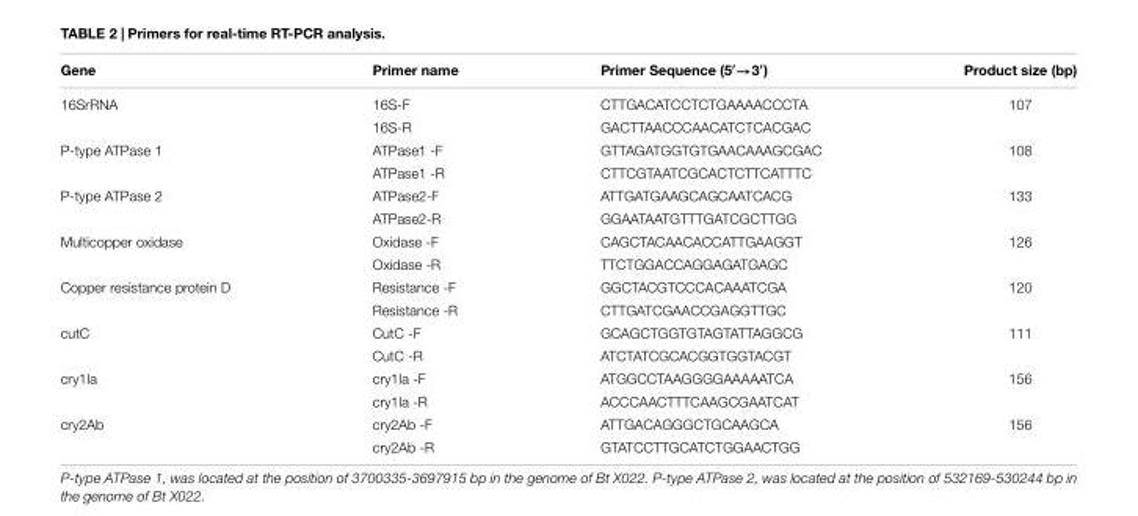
<table><thead><tr><td>Gene</td><td>Primer name</td><td>Primer Sequence (5′→3′)</td><td>Product size (bp)</td></tr></thead><tbody><tr><td rowspan="2">16SrRNA</td><td>16S-F</td><td>CTTGACATCCTCTGAAAACCCTA</td><td>107</td></tr><tr><td>16S-R</td><td>GACTTAACCCAACATCTCACGAC</td><td></td></tr><tr><td rowspan="2">P-type ATPase 1</td><td>ATPase1 -F</td><td>GTTAGATGGTGTGAACAAAGCGAC</td><td>108</td></tr><tr><td>ATPase1 -R</td><td>CTTCGTAATCGCACTCTTCATTTC</td><td></td></tr><tr><td rowspan="2">P-type ATPase 2</td><td>ATPase2-F</td><td>ATTGATGAAGCAGCAATCACG</td><td>133</td></tr><tr><td>ATPase2-R</td><td>GGAATAATGTTTGATCGCTTGG</td><td></td></tr><tr><td rowspan="2">Multicopper oxidase</td><td>Oxidase -F</td><td>CAGCTACAACACCATTGAAGGT</td><td>126</td></tr><tr><td>Oxidase -R</td><td>TTCTGGACCAGGAGATGAGC</td><td></td></tr><tr><td rowspan="2">Copper resistance protein D</td><td>Resistance -F</td><td>GGCTACGTCCCACAAATCGA</td><td>120</td></tr><tr><td>Resistance -R</td><td>CTTGATCGAACCGAGGTTGC</td><td></td></tr><tr><td rowspan="2">cutC</td><td>CutC -F</td><td>GCAGCTGGTGTAGTATTAGGCG</td><td>111</td></tr><tr><td>CutC -R</td><td>ATCTATCGCACGGTGGTACGT</td><td></td></tr><tr><td rowspan="2">cry1Ia</td><td>cry1Ia -F</td><td>ATGGCCTAAGGGGAAAAATCA</td><td>156</td></tr><tr><td>cry1Ia -R</td><td>ACCCAACTTTCAAGCGAATCAT</td><td></td></tr><tr><td rowspan="2">cry2Ab</td><td>cry2Ab -F</td><td>ATTGACAGGGCTGCAAGCA</td><td>156</td></tr><tr><td>cry2Ab -R</td><td>GTATCCTTGCATCTGGAACTGG</td><td></td></tr></tbody></table>